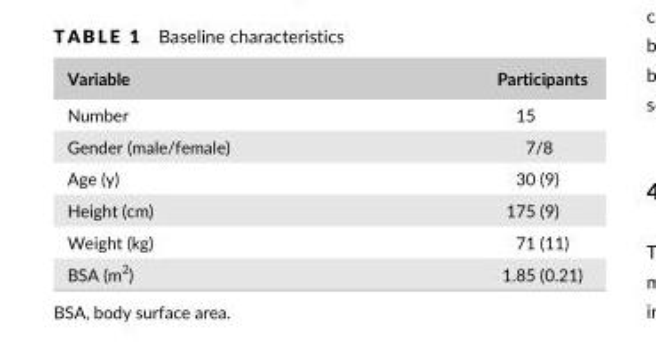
<table><thead><tr><td>Variable</td><td>Participants</td></tr></thead><tbody><tr><td>Number</td><td>15</td></tr><tr><td>Gender (male/female)</td><td>7/8</td></tr><tr><td>Age (y)</td><td>30 (9)</td></tr><tr><td>Height (cm)</td><td>175 (9)</td></tr><tr><td>Weight (kg)</td><td>71 (11)</td></tr><tr><td>BSA (m<sup>2</sup>)</td><td>1.85 (0.21)</td></tr></tbody></table>